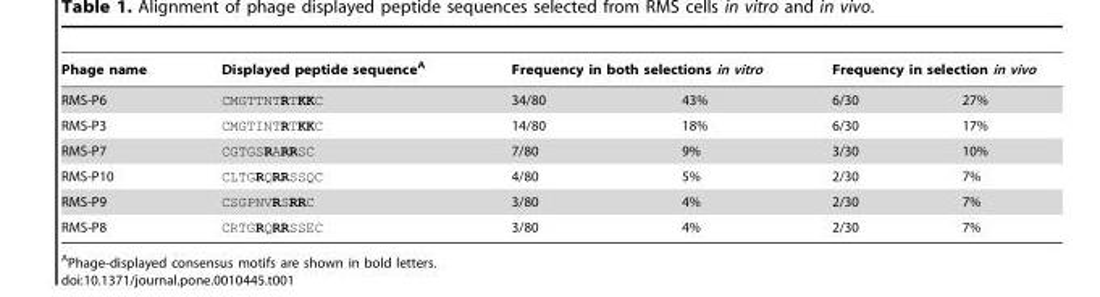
<table><thead><tr><td rowspan="2">Phage name RMS-P6</td><td rowspan="2">Displayed peptide sequence<sup>A</sup> CMGTTNTRTKKC</td><td colspan="2">Frequency in both selections in vitro</td><td colspan="2">Frequency in selection in vivo</td></tr><tr><td>34/80</td><td>43%</td><td>6/30</td><td>27%</td></tr></thead><tbody><tr><td>RMS-P3</td><td>CMGTINTRTKKC</td><td>14/80</td><td>18%</td><td>6/30</td><td>17%</td></tr><tr><td>RMS-P7</td><td>CGTGSRARRSC</td><td>7/80</td><td>9%</td><td>3/30</td><td>10%</td></tr><tr><td>RMS-P10</td><td>CLTGRQRRSSQC</td><td>4/80</td><td>5%</td><td>2/30</td><td>7%</td></tr><tr><td>RMS-P9</td><td>CSGPNVRSRRC</td><td>3/80</td><td>4%</td><td>2/30</td><td>7%</td></tr><tr><td>RMS-P8</td><td>CRTGRQRRSSEC</td><td>3/80</td><td>4%</td><td>2/30</td><td>7%</td></tr></tbody></table>